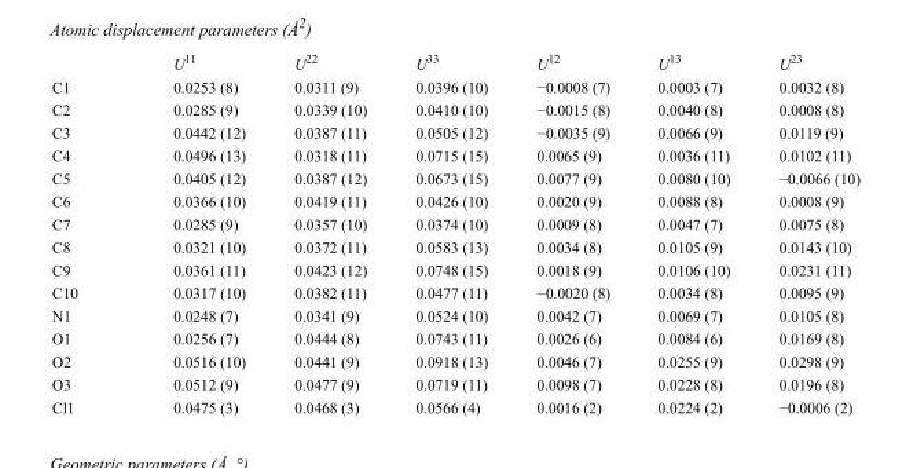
<table><thead><tr><td></td><td>U<sup>11</sup></td><td>U<sup>22</sup></td><td>U<sup>33</sup></td><td>U<sup>12</sup></td><td>U<sup>13</sup></td><td>U<sup>23</sup></td></tr></thead><tbody><tr><td>C1</td><td>0.0253 (8)</td><td>0.0311 (9)</td><td>0.0396 (10)</td><td>−0.0008 (7)</td><td>0.0003 (7)</td><td>0.0032 (8)</td></tr><tr><td>C2</td><td>0.0285 (9)</td><td>0.0339 (10)</td><td>0.0410 (10)</td><td>−0.0015 (8)</td><td>0.0040 (8)</td><td>0.0008 (8)</td></tr><tr><td>C3</td><td>0.0442 (12)</td><td>0.0387 (11)</td><td>0.0505 (12)</td><td>−0.0035 (9)</td><td>0.0066 (9)</td><td>0.0119 (9)</td></tr><tr><td>C4</td><td>0.0496 (13)</td><td>0.0318 (11)</td><td>0.0715 (15)</td><td>0.0065 (9)</td><td>0.0036 (11)</td><td>0.0102 (11)</td></tr><tr><td>C5</td><td>0.0405 (12)</td><td>0.0387 (12)</td><td>0.0673 (15)</td><td>0.0077 (9)</td><td>0.0080 (10)</td><td>−0.0066 (10)</td></tr><tr><td>C6</td><td>0.0366 (10)</td><td>0.0419 (11)</td><td>0.0426 (10)</td><td>0.0020 (9)</td><td>0.0088 (8)</td><td>0.0008 (9)</td></tr><tr><td>C7</td><td>0.0285 (9)</td><td>0.0357 (10)</td><td>0.0374 (10)</td><td>0.0009 (8)</td><td>0.0047 (7)</td><td>0.0075 (8)</td></tr><tr><td>C8</td><td>0.0321 (10)</td><td>0.0372 (11)</td><td>0.0583 (13)</td><td>0.0034 (8)</td><td>0.0105 (9)</td><td>0.0143 (10)</td></tr><tr><td>C9</td><td>0.0361 (11)</td><td>0.0423 (12)</td><td>0.0748 (15)</td><td>0.0018 (9)</td><td>0.0106 (10)</td><td>0.0231 (11)</td></tr><tr><td>C10</td><td>0.0317 (10)</td><td>0.0382 (11)</td><td>0.0477 (11)</td><td>−0.0020 (8)</td><td>0.0034 (8)</td><td>0.0095 (9)</td></tr><tr><td>N1</td><td>0.0248 (7)</td><td>0.0341 (9)</td><td>0.0524 (10)</td><td>0.0042 (7)</td><td>0.0069 (7)</td><td>0.0105 (8)</td></tr><tr><td>O1</td><td>0.0256 (7)</td><td>0.0444 (8)</td><td>0.0743 (11)</td><td>0.0026 (6)</td><td>0.0084 (6)</td><td>0.0169 (8)</td></tr><tr><td>O2</td><td>0.0516 (10)</td><td>0.0441 (9)</td><td>0.0918 (13)</td><td>0.0046 (7)</td><td>0.0255 (9)</td><td>0.0298 (9)</td></tr><tr><td>O3</td><td>0.0512 (9)</td><td>0.0477 (9)</td><td>0.0719 (11)</td><td>0.0098 (7)</td><td>0.0228 (8)</td><td>0.0196 (8)</td></tr><tr><td>Cl1</td><td>0.0475 (3)</td><td>0.0468 (3)</td><td>0.0566 (4)</td><td>0.0016 (2)</td><td>0.0224 (2)</td><td>−0.0006 (2)</td></tr></tbody></table>